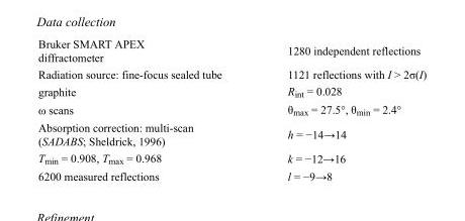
<table><tbody><tr><td>Bruker SMART APEX diffractometer</td><td>1280 independent reflections</td></tr><tr><td>Radiation source: fine-focus sealed tube</td><td>1121 reflections with I &gt; 2σ(I)</td></tr><tr><td>graphite</td><td>R<sub>int</sub> = 0.028</td></tr><tr><td>ω scans</td><td>θ<sub>max</sub> = 27.5°, θ<sub>min</sub> = 2.4°</td></tr><tr><td>Absorption correction: multi-scan (SADABS; Sheldrick, 1996)</td><td>h = −14→14</td></tr><tr><td>T<sub>min</sub> = 0.908, T<sub>max</sub> = 0.968</td><td>k = −12→16</td></tr><tr><td>6200 measured reflections</td><td>l = −9→8</td></tr></tbody></table>